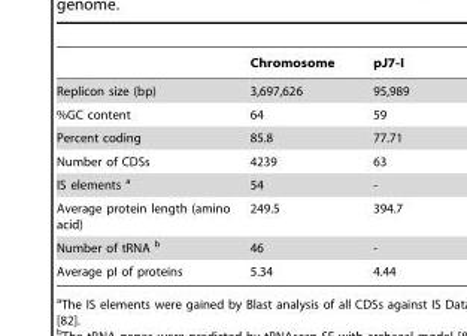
<table><thead><tr><td></td><td>Chromosome</td><td>pJ7-I</td></tr></thead><tbody><tr><td>Replicon size (bp)</td><td>3,697,626</td><td>95,989</td></tr><tr><td>%GC content</td><td>64</td><td>59</td></tr><tr><td>Percent coding</td><td>85.8</td><td>77.71</td></tr><tr><td>Number of CDSs</td><td>4239</td><td>63</td></tr><tr><td>IS elements a</td><td>54</td><td>-</td></tr><tr><td>Average protein length (amino acid)</td><td>249.5</td><td>394.7</td></tr><tr><td>Number of tRNA b</td><td>46</td><td>-</td></tr><tr><td>Average pI of proteins</td><td>5.34</td><td>4.44</td></tr></tbody></table>